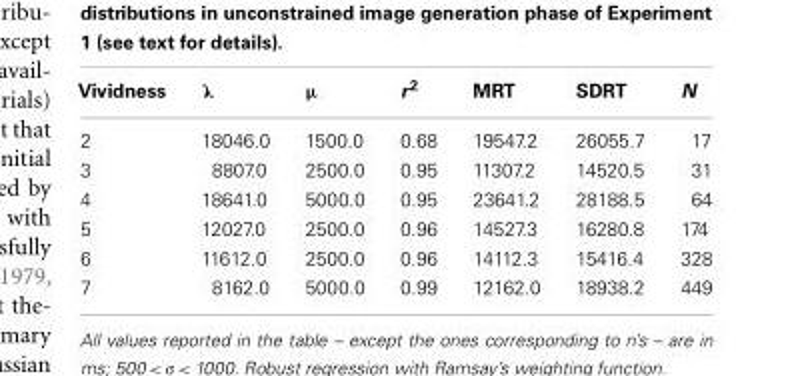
<table><thead><tr><td>Vividness</td><td>λ</td><td>µ</td><td>r <sup>2</sup></td><td>MRT</td><td>SDRT</td><td>N</td></tr></thead><tbody><tr><td>2</td><td>18046.0</td><td>1500.0</td><td>0.68</td><td>19547.2</td><td>26055.7</td><td>17</td></tr><tr><td>3</td><td>8807.0</td><td>2500.0</td><td>0.95</td><td>11307.2</td><td>14520.5</td><td>31</td></tr><tr><td>4</td><td>18641.0</td><td>5000.0</td><td>0.95</td><td>23641.2</td><td>28188.5</td><td>64</td></tr><tr><td>5</td><td>12027.0</td><td>2500.0</td><td>0.96</td><td>14527.3</td><td>16280.8</td><td>174</td></tr><tr><td>6</td><td>11612.0</td><td>2500.0</td><td>0.96</td><td>14112.3</td><td>15416.4</td><td>328</td></tr><tr><td>7</td><td>8162.0</td><td>5000.0</td><td>0.99</td><td>12162.0</td><td>18938.2</td><td>449</td></tr></tbody></table>